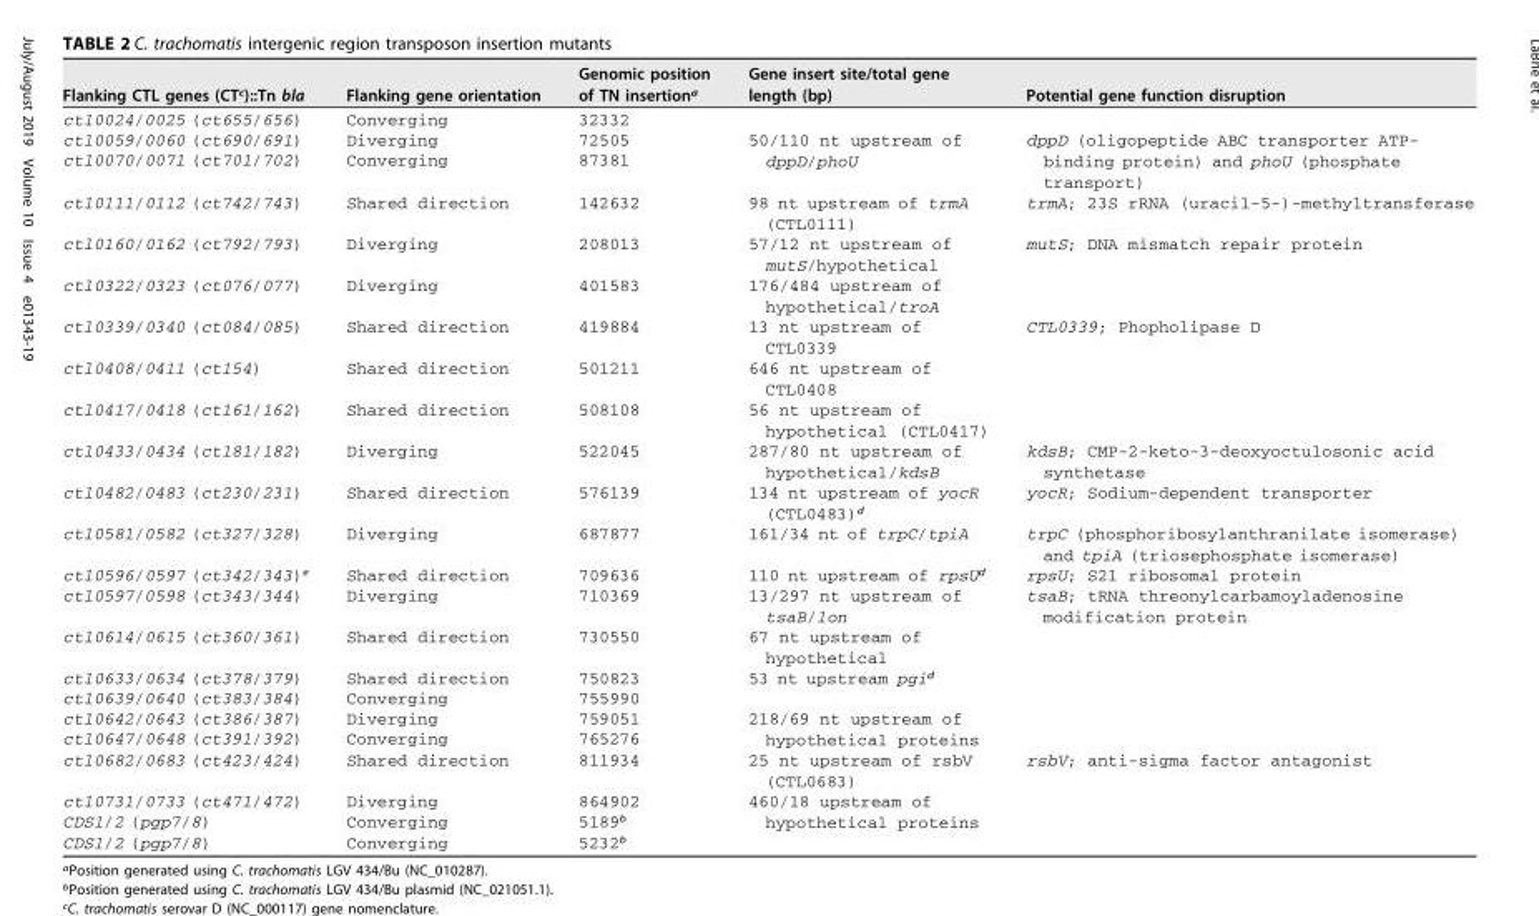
<table><thead><tr><td>Flanking CTL genes (CT<sup>c</sup>)::Tn bla</td><td>Flanking gene orientation</td><td>Genomic position of TN insertion<sup>a</sup></td><td>Gene insert site/total gene length (bp)</td><td>Potential gene function disruption</td></tr></thead><tbody><tr><td>ctl0024/0025 (ct655/656)</td><td>Converging</td><td>32332</td><td></td><td></td></tr><tr><td>ctl0059/0060 (ct690/691)</td><td>Diverging</td><td>72505</td><td rowspan="2">50/110 nt upstream of dppD/phoU</td><td rowspan="2">dppD (oligopeptide ABC transporter ATP- binding protein) and phoU (phosphate transport)</td></tr><tr><td>ctl0070/0071 (ct701/702)</td><td>Converging</td><td>87381</td></tr><tr><td>ctl0111/0112 (ct742/743)</td><td>Shared direction</td><td>142632</td><td>98 nt upstream of trmA (CTL0111)</td><td>trmA; 23S rRNA (uracil-5-)-methyltransferase</td></tr><tr><td>ctl0160/0162 (ct792/793)</td><td>Diverging</td><td>208013</td><td>57/12 nt upstream of mutS/hypothetical</td><td>mutS; DNA mismatch repair protein</td></tr><tr><td>ctl0322/0323 (ct076/077)</td><td>Diverging</td><td>401583</td><td>176/484 upstream of hypothetical/troA</td><td></td></tr><tr><td>ctl0339/0340 (ct084/085)</td><td>Shared direction</td><td>419884</td><td>13 nt upstream of CTL0339</td><td>CTL0339; Phopholipase D</td></tr><tr><td>ctl0408/0411 (ct154)</td><td>Shared direction</td><td>501211</td><td>646 nt upstream of CTL0408</td><td></td></tr><tr><td>ctl0417/0418 (ct161/162)</td><td>Shared direction</td><td>508108</td><td>56 nt upstream of hypothetical (CTL0417)</td><td></td></tr><tr><td>ctl0433/0434 (ct181/182)</td><td>Diverging</td><td>522045</td><td>287/80 nt upstream of hypothetical/kdsB</td><td>kdsB; CMP-2-keto-3-deoxyoctulosonic acid synthetase</td></tr><tr><td>ctl0482/0483 (ct230/231)</td><td>Shared direction</td><td>576139</td><td>134 nt upstream of yocR (CTL0483)<sup>d</sup></td><td>yocR; Sodium-dependent transporter</td></tr><tr><td>ctl0581/0582 (ct327/328)</td><td>Diverging</td><td>687877</td><td>161/34 nt of trpC/tpiA</td><td>trpC (phosphoribosylanthranilate isomerase) and tpiA (triosephosphate isomerase)</td></tr><tr><td>ctl0596/0597 (ct342/343)<sup>e</sup></td><td>Shared direction</td><td>709636</td><td>110 nt upstream of rpsU<sup>d</sup></td><td>rpsU; S21 ribosomal protein</td></tr><tr><td>ctl0597/0598 (ct343/344)</td><td>Diverging</td><td>710369</td><td>13/297 nt upstream of tsaB/lon</td><td>tsaB; tRNA threonylcarbamoyladenosine modification protein</td></tr><tr><td>ctl0614/0615 (ct360/361)</td><td>Shared direction</td><td>730550</td><td>67 nt upstream of hypothetical</td><td></td></tr><tr><td>ctl0633/0634 (ct378/379)</td><td>Shared direction</td><td>750823</td><td>53 nt upstream pgi<sup>d</sup></td><td></td></tr><tr><td>ctl0639/0640 (ct383/384)</td><td>Converging</td><td>755990</td><td></td><td></td></tr><tr><td>ctl0642/0643 (ct386/387)</td><td>Diverging</td><td>759051</td><td rowspan="2">218/69 nt upstream of hypothetical proteins</td><td rowspan="2"></td></tr><tr><td>ctl0647/0648 (ct391/392)</td><td>Converging</td><td>765276</td></tr><tr><td>ctl0682/0683 (ct423/424)</td><td>Shared direction</td><td>811934</td><td>25 nt upstream of rsbV (CTL0683)</td><td>rsbV; anti-sigma factor antagonist</td></tr><tr><td>ctl0731/0733 (ct471/472)</td><td>Diverging</td><td>864902</td><td rowspan="2">460/18 upstream of hypothetical proteins</td><td rowspan="2"></td></tr><tr><td>CDS1/2 (pgp7/8)</td><td>Converging</td><td>5189<sup>b</sup></td></tr><tr><td>CDS1/2 (pgp7/8)</td><td>Converging</td><td>5232<sup>b</sup></td><td></td><td></td></tr></tbody></table>